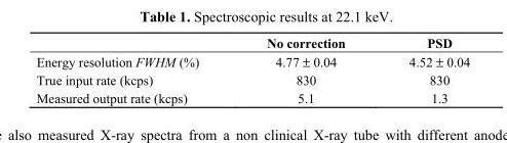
<table><thead><tr><td></td><td>No correction</td><td>PSD</td></tr></thead><tbody><tr><td>Energy resolution FWHM (%)</td><td>4.77 ± 0.04</td><td>4.52 ± 0.04</td></tr><tr><td>True input rate (kcps)</td><td>830</td><td>830</td></tr><tr><td>Measured output rate (kcps)</td><td>5.1</td><td>1.3</td></tr></tbody></table>